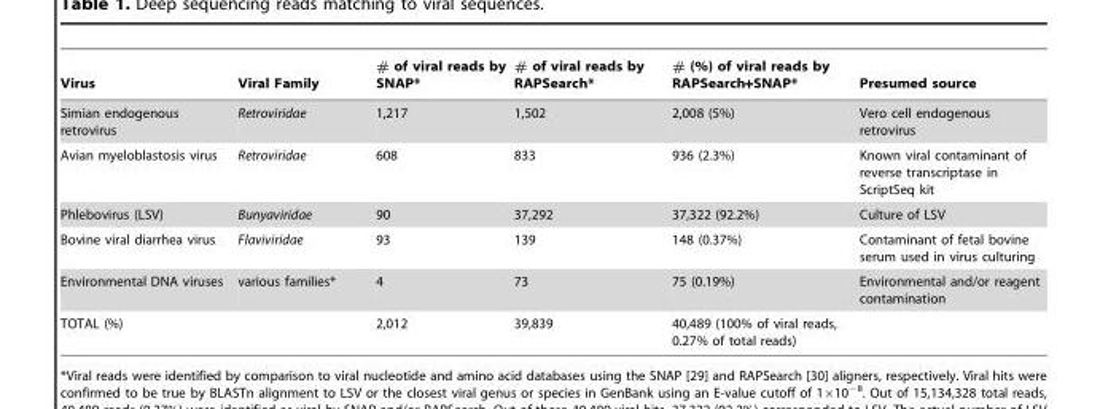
<table><thead><tr><td>Virus</td><td>Viral Family</td><td># of viral reads by SNAP*</td><td># of viral reads by RAPSearch*</td><td># (%) of viral reads by RAPSearch+SNAP*</td><td>Presumed source</td></tr></thead><tbody><tr><td>Simian endogenous retrovirus</td><td>Retroviridae</td><td>1,217</td><td>1,502</td><td>2,008 (5%)</td><td>Vero cell endogenous retrovirus</td></tr><tr><td>Avian myeloblastosis virus</td><td>Retroviridae</td><td>608</td><td>833</td><td>936 (2.3%)</td><td>Known viral contaminant of reverse transcriptase in ScriptSeq kit</td></tr><tr><td>Phlebovirus (LSV)</td><td>Bunyaviridae</td><td>90</td><td>37,292</td><td>37,322 (92.2%)</td><td>Culture of LSV</td></tr><tr><td>Bovine viral diarrhea virus</td><td>Flaviviridae</td><td>93</td><td>139</td><td>148 (0.37%)</td><td>Contaminant of fetal bovine serum used in virus culturing</td></tr><tr><td>Environmental DNA viruses</td><td>various families*</td><td>4</td><td>73</td><td>75 (0.19%)</td><td>Environmental and/or reagent contamination</td></tr><tr><td>TOTAL (%)</td><td></td><td>2,012</td><td>39,839</td><td>40,489 (100% of viral reads, 0.27% of total reads)</td><td></td></tr></tbody></table>